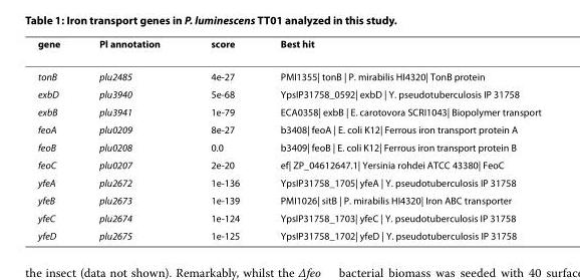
<table><thead><tr><td>gene</td><td>Pl annotation</td><td>score</td><td>Best hit</td></tr></thead><tbody><tr><td>tonB</td><td>plu2485</td><td>4e-27</td><td>PMI1355| tonB | P. mirabilis HI4320| TonB protein</td></tr><tr><td>exbD</td><td>plu3940</td><td>5e-68</td><td>YpsIP31758_0592| exbD | Y. pseudotuberculosis IP 31758</td></tr><tr><td>exbB</td><td>plu3941</td><td>1e-79</td><td>ECA0358| exbB | E. carotovora SCRI1043| Biopolymer transport</td></tr><tr><td>feoA</td><td>plu0209</td><td>8e-27</td><td>b3408| feoA | E. coli K12| Ferrous iron transport protein A</td></tr><tr><td>feoB</td><td>plu0208</td><td>0.0</td><td>b3409| feoB | E. coli K12| Ferrous iron transport protein B</td></tr><tr><td>feoC</td><td>plu0207</td><td>2e-20</td><td>ef| ZP_04612647.1| Yersinia rohdei ATCC 43380| FeoC</td></tr><tr><td>yfeA</td><td>plu2672</td><td>1e-136</td><td>YpsIP31758_1705| yfeA | Y. pseudotuberculosis IP 31758</td></tr><tr><td>yfeB</td><td>plu2673</td><td>1e-139</td><td>PMI1026| sitB | P. mirabilis HI4320| Iron ABC transporter</td></tr><tr><td>yfeC</td><td>plu2674</td><td>1e-124</td><td>YpsIP31758_1703| yfeC | Y. pseudotuberculosis IP 31758</td></tr><tr><td>yfeD</td><td>plu2675</td><td>1e-125</td><td>YpsIP31758_1702| yfeD | Y. pseudotuberculosis IP 31758</td></tr></tbody></table>